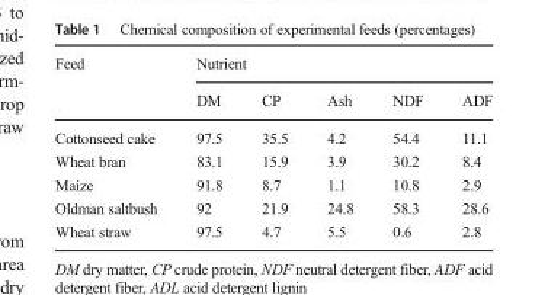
<table><thead><tr><td rowspan="2">Feed</td><td colspan="5">Nutrient</td></tr><tr><td>DM</td><td>CP</td><td>Ash</td><td>NDF</td><td>ADF</td></tr></thead><tbody><tr><td>Cottonseed cake</td><td>97.5</td><td>35.5</td><td>4.2</td><td>54.4</td><td>11.1</td></tr><tr><td>Wheat bran</td><td>83.1</td><td>15.9</td><td>3.9</td><td>30.2</td><td>8.4</td></tr><tr><td>Maize</td><td>91.8</td><td>8.7</td><td>1.1</td><td>10.8</td><td>2.9</td></tr><tr><td>Oldman saltbush</td><td>92</td><td>21.9</td><td>24.8</td><td>58.3</td><td>28.6</td></tr><tr><td>Wheat straw</td><td>97.5</td><td>4.7</td><td>5.5</td><td>0.6</td><td>2.8</td></tr></tbody></table>